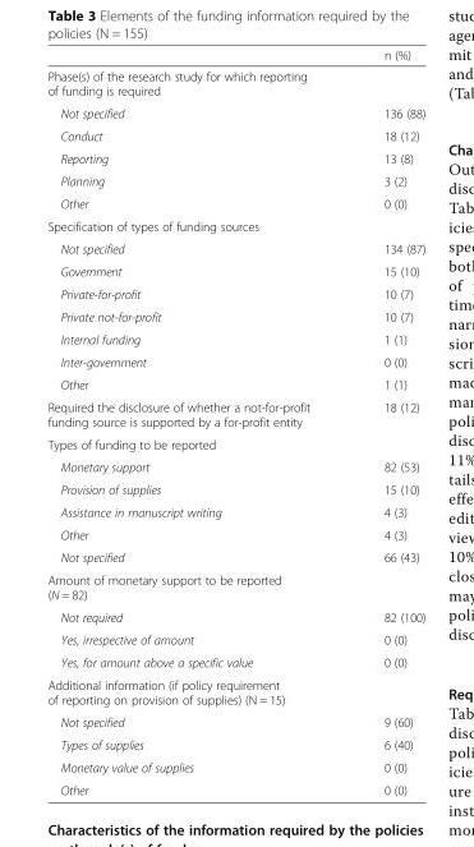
<table><thead><tr><td></td><td>n (%)</td></tr></thead><tbody><tr><td colspan="2">Phase(s) of the research study for which reporting of funding is required</td></tr><tr><td>Not specified</td><td>136 (88)</td></tr><tr><td>Conduct</td><td>18 (12)</td></tr><tr><td>Reporting</td><td>13 (8)</td></tr><tr><td>Planning</td><td>3 (2)</td></tr><tr><td>Other</td><td>0 (0)</td></tr><tr><td colspan="2">Specification of types of funding sources</td></tr><tr><td>Not specified</td><td>134 (87)</td></tr><tr><td>Government</td><td>15 (10)</td></tr><tr><td>Private-for-profit</td><td>10 (7)</td></tr><tr><td>Private not-for-profit</td><td>10 (7)</td></tr><tr><td>Internal funding</td><td>1 (1)</td></tr><tr><td>Inter-government</td><td>0 (0)</td></tr><tr><td>Other</td><td>1 (1)</td></tr><tr><td>Required the disclosure of whether a not-for-profit funding source is supported by a for-profit entity</td><td>18 (12)</td></tr><tr><td colspan="2">Types of funding to be reported</td></tr><tr><td>Monetary support</td><td>82 (53)</td></tr><tr><td>Provision of supplies</td><td>15 (10)</td></tr><tr><td>Assistance in manuscript writing</td><td>4 (3)</td></tr><tr><td>Other</td><td>4 (3)</td></tr><tr><td>Not specified</td><td>66 (43)</td></tr><tr><td colspan="2">Amount of monetary support to be reported (N = 82)</td></tr><tr><td>Not required</td><td>82 (100)</td></tr><tr><td>Yes, irrespective of amount</td><td>0 (0)</td></tr><tr><td>Yes, for amount above a specific value</td><td>0 (0)</td></tr><tr><td colspan="2">Additional information (if policy requirement of reporting on provision of supplies) (N = 15)</td></tr><tr><td>Not specified</td><td>9 (60)</td></tr><tr><td>Types of supplies</td><td>6 (40)</td></tr><tr><td>Monetary value of supplies</td><td>0 (0)</td></tr><tr><td>Other</td><td>0 (0)</td></tr></tbody></table>